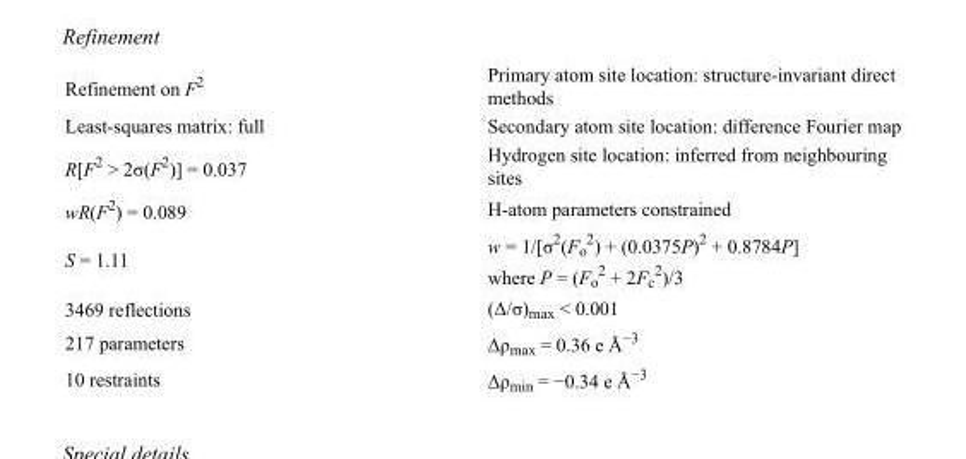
<table><tbody><tr><td>Refinement on F<sup>2</sup></td><td>Primary atom site location: structure-invariant direct methods</td></tr><tr><td>Least-squares matrix: full</td><td>Secondary atom site location: difference Fourier map</td></tr><tr><td>R[F<sup>2</sup> &gt; 2σ(F<sup>2</sup>)] = 0.037</td><td>Hydrogen site location: inferred from neighbouring sites</td></tr><tr><td>wR(F<sup>2</sup>) = 0.089</td><td>H-atom parameters constrained</td></tr><tr><td>S = 1.11</td><td>w = 1/[σ<sup>2</sup>(F<sub>o</sub> <sup>2</sup>) + (0.0375P)<sup>2</sup> + 0.8784P] where P = (F<sub>o</sub> <sup>2</sup> + 2F<sub>c</sub> <sup>2</sup>)/3</td></tr><tr><td>3469 reflections</td><td>(Δ/σ)<sub>max</sub> &lt; 0.001</td></tr><tr><td>217 parameters</td><td>Δρ<sub>max</sub> = 0.36 e Å<sup>−3</sup></td></tr><tr><td>10 restraints</td><td>Δρ<sub>min</sub> = −0.34 e Å<sup>−3</sup></td></tr></tbody></table>